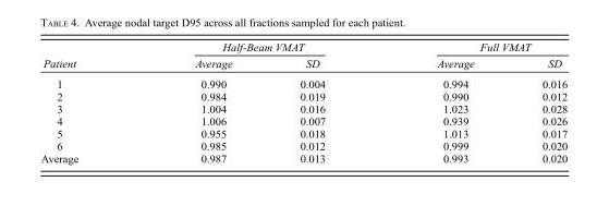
<table><thead><tr><td rowspan="2">Patient</td><td colspan="2">Half-Beam VMAT</td><td colspan="2">Full VMAT</td></tr><tr><td>Average</td><td>SD</td><td>Average</td><td>SD</td></tr></thead><tbody><tr><td>1</td><td>0.990</td><td>0.004</td><td>0.994</td><td>0.016</td></tr><tr><td>2</td><td>0.984</td><td>0.019</td><td>0.990</td><td>0.012</td></tr><tr><td>3</td><td>1.004</td><td>0.016</td><td>1.023</td><td>0.028</td></tr><tr><td>4</td><td>1.006</td><td>0.007</td><td>0.939</td><td>0.026</td></tr><tr><td>5</td><td>0.955</td><td>0.018</td><td>1.013</td><td>0.017</td></tr><tr><td>6</td><td>0.985</td><td>0.012</td><td>0.999</td><td>0.020</td></tr><tr><td>Average</td><td>0.987</td><td>0.013</td><td>0.993</td><td>0.020</td></tr></tbody></table>